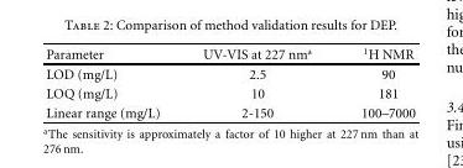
<table><thead><tr><td>Parameter</td><td>UV-VIS at 227 nm<sup>a</sup></td><td><sup>1</sup>H NMR</td></tr></thead><tbody><tr><td>LOD (mg/L)</td><td>2.5</td><td>90</td></tr><tr><td>LOQ (mg/L)</td><td>10</td><td>181</td></tr><tr><td>Linear range (mg/L)</td><td>2-150</td><td>100–7000</td></tr></tbody></table>